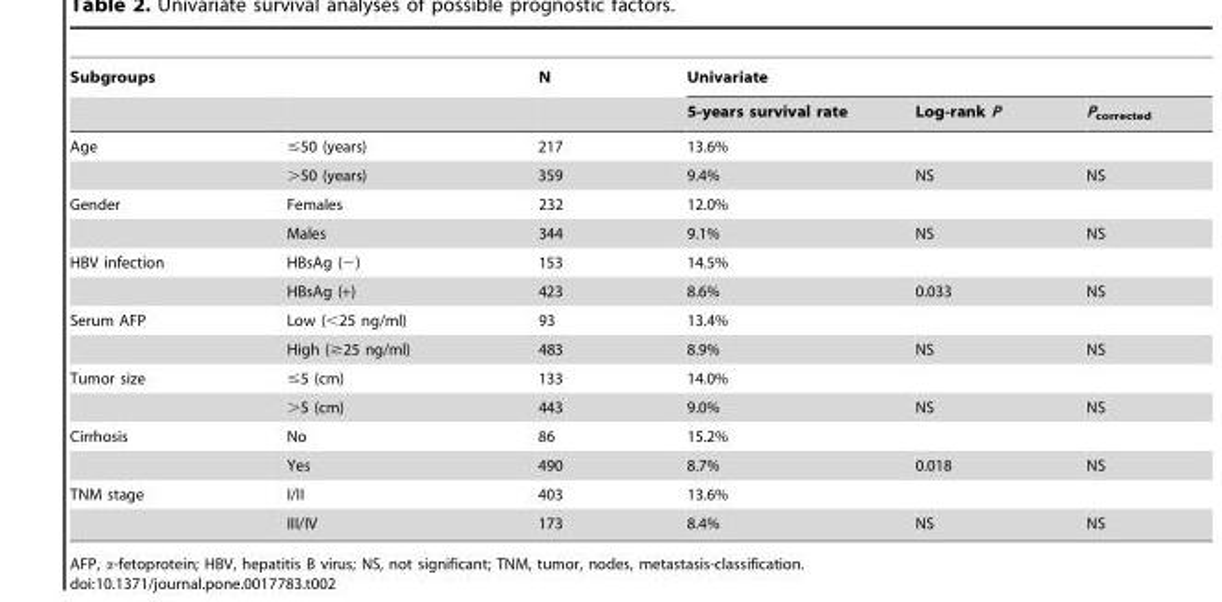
<table><thead><tr><td colspan="2">Subgroups</td><td rowspan="2">N</td><td colspan="3">Univariate</td></tr><tr><td></td><td></td><td>5-years survival rate</td><td>Log-rank P</td><td>P<sub>corrected</sub></td></tr></thead><tbody><tr><td rowspan="2">Age</td><td>≤50 (years)</td><td>217</td><td>13.6%</td><td></td><td></td></tr><tr><td>&gt;50 (years)</td><td>359</td><td>9.4%</td><td>NS</td><td>NS</td></tr><tr><td rowspan="2">Gender</td><td>Females</td><td>232</td><td>12.0%</td><td></td><td></td></tr><tr><td>Males</td><td>344</td><td>9.1%</td><td>NS</td><td>NS</td></tr><tr><td rowspan="2">HBV infection</td><td>HBsAg (−)</td><td>153</td><td>14.5%</td><td></td><td></td></tr><tr><td>HBsAg (+)</td><td>423</td><td>8.6%</td><td>0.033</td><td>NS</td></tr><tr><td rowspan="2">Serum AFP</td><td>Low (&lt;25 ng/ml)</td><td>93</td><td>13.4%</td><td></td><td></td></tr><tr><td>High (≥25 ng/ml)</td><td>483</td><td>8.9%</td><td>NS</td><td>NS</td></tr><tr><td rowspan="2">Tumor size</td><td>≤5 (cm)</td><td>133</td><td>14.0%</td><td></td><td></td></tr><tr><td>&gt;5 (cm)</td><td>443</td><td>9.0%</td><td>NS</td><td>NS</td></tr><tr><td rowspan="2">Cirrhosis</td><td>No</td><td>86</td><td>15.2%</td><td></td><td></td></tr><tr><td>Yes</td><td>490</td><td>8.7%</td><td>0.018</td><td>NS</td></tr><tr><td rowspan="2">TNM stage</td><td>I/II</td><td>403</td><td>13.6%</td><td></td><td></td></tr><tr><td>III/IV</td><td>173</td><td>8.4%</td><td>NS</td><td>NS</td></tr></tbody></table>